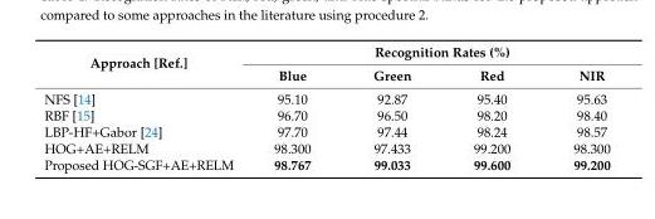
<table><thead><tr><td rowspan="2">Approach [Ref.]</td><td colspan="4">Recognition Rates (%)</td></tr><tr><td>Blue</td><td>Green</td><td>Red</td><td>NIR</td></tr></thead><tbody><tr><td>NFS [14]</td><td>95.10</td><td>92.87</td><td>95.40</td><td>95.63</td></tr><tr><td>RBF [15]</td><td>96.70</td><td>96.50</td><td>98.20</td><td>98.40</td></tr><tr><td>LBP-HF+Gabor [24]</td><td>97.70</td><td>97.44</td><td>98.24</td><td>98.57</td></tr><tr><td>HOG+AE+RELM</td><td>98.300</td><td>97.433</td><td>99.200</td><td>98.300</td></tr><tr><td>Proposed HOG-SGF+AE+RELM</td><td>98.767</td><td>99.033</td><td>99.600</td><td>99.200</td></tr></tbody></table>